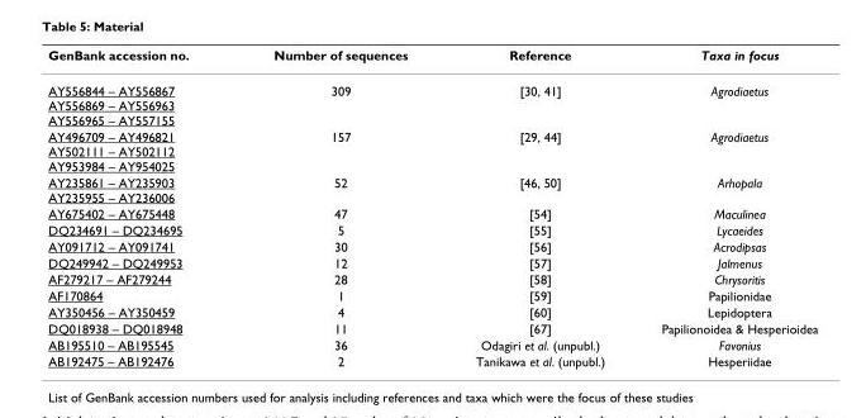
<table><thead><tr><td>GenBank accession no.</td><td>Number of sequences</td><td>Reference</td><td>Taxa in focus</td></tr></thead><tbody><tr><td>AY556844 – AY556867 AY556869 – AY556963 AY556965 – AY557155</td><td>309</td><td>[30, 41]</td><td>Agrodiaetus</td></tr><tr><td>AY496709 – AY496821 AY502111 – AY502112 AY953984 – AY954025</td><td>157</td><td>[29, 44]</td><td>Agrodiaetus</td></tr><tr><td>AY235861 – AY235903 AY235955 – AY236006</td><td>52</td><td>[46, 50]</td><td>Arhopala</td></tr><tr><td>AY675402 – AY675448</td><td>47</td><td>[54]</td><td>Maculinea</td></tr><tr><td>DQ234691 – DQ234695</td><td>5</td><td>[55]</td><td>Lycaeides</td></tr><tr><td>AY091712 – AY091741</td><td>30</td><td>[56]</td><td>Acrodipsas</td></tr><tr><td>DQ249942 – DQ249953</td><td>12</td><td>[57]</td><td>Jalmenus</td></tr><tr><td>AF279217 – AF279244</td><td>28</td><td>[58]</td><td>Chrysoritis</td></tr><tr><td>AF170864</td><td>1</td><td>[59]</td><td>Papilionidae</td></tr><tr><td>AY350456 – AY350459</td><td>4</td><td>[60]</td><td>Lepidoptera</td></tr><tr><td>DQ018938 – DQ018948</td><td>11</td><td>[67]</td><td>Papilionoidea &amp; Hesperioidea</td></tr><tr><td>AB195510 – AB195545</td><td>36</td><td>Odagiri et al. (unpubl.)</td><td>Favonius</td></tr><tr><td>AB192475 – AB192476</td><td>2</td><td>Tanikawa et al. (unpubl.)</td><td>Hesperiidae</td></tr></tbody></table>